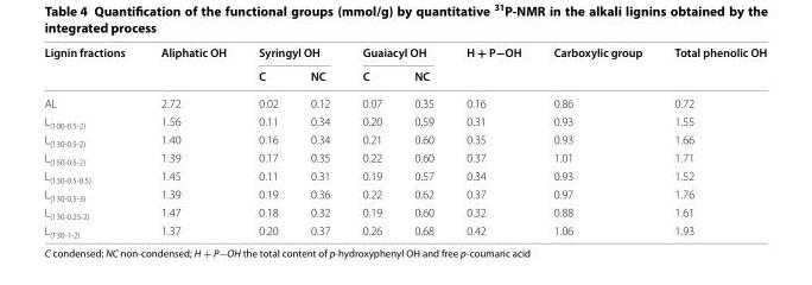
<table><thead><tr><td rowspan="2">Lignin fractions</td><td rowspan="2">Aliphatic OH</td><td colspan="2">Syringyl OH</td><td colspan="2">Guaiacyl OH</td><td rowspan="2">H + P−OH</td><td rowspan="2">Carboxylic group</td><td rowspan="2">Total phenolic OH</td></tr><tr><td>C</td><td>NC</td><td>C</td><td>NC</td></tr></thead><tbody><tr><td>AL</td><td>2.72</td><td>0.02</td><td>0.12</td><td>0.07</td><td>0.35</td><td>0.16</td><td>0.86</td><td>0.72</td></tr><tr><td>L<sub>(100‑0.5‑2)</sub></td><td>1.56</td><td>0.11</td><td>0.34</td><td>0.20</td><td>0.59</td><td>0.31</td><td>0.93</td><td>1.55</td></tr><tr><td>L<sub>(130‑0.5‑2)</sub></td><td>1.40</td><td>0.16</td><td>0.34</td><td>0.21</td><td>0.60</td><td>0.35</td><td>0.93</td><td>1.66</td></tr><tr><td>L<sub>(150‑0.5‑2)</sub></td><td>1.39</td><td>0.17</td><td>0.35</td><td>0.22</td><td>0.60</td><td>0.37</td><td>1.01</td><td>1.71</td></tr><tr><td>L<sub>(130‑0.5‑0.5)</sub></td><td>1.45</td><td>0.11</td><td>0.31</td><td>0.19</td><td>0.57</td><td>0.34</td><td>0.93</td><td>1.52</td></tr><tr><td>L<sub>(130‑0.5‑3)</sub></td><td>1.39</td><td>0.19</td><td>0.36</td><td>0.22</td><td>0.62</td><td>0.37</td><td>0.97</td><td>1.76</td></tr><tr><td>L<sub>(130‑0.25‑2)</sub></td><td>1.47</td><td>0.18</td><td>0.32</td><td>0.19</td><td>0.60</td><td>0.32</td><td>0.88</td><td>1.61</td></tr><tr><td>L<sub>(130‑1‑2)</sub></td><td>1.37</td><td>0.20</td><td>0.37</td><td>0.26</td><td>0.68</td><td>0.42</td><td>1.06</td><td>1.93</td></tr></tbody></table>